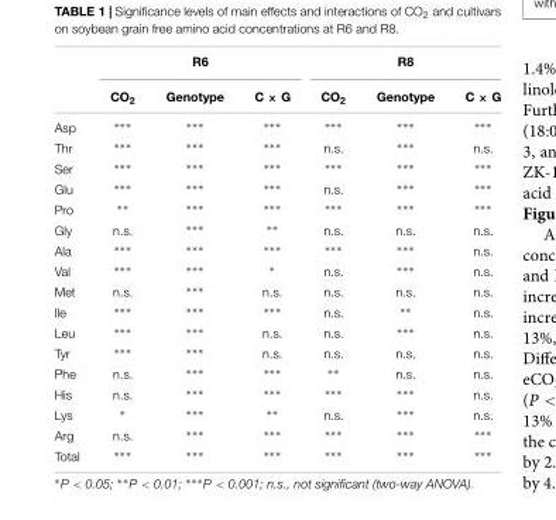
<table><thead><tr><td rowspan="2"></td><td colspan="3">R6</td><td colspan="3">R8</td></tr><tr><td>CO<sub>2</sub></td><td>Genotype</td><td>C × G</td><td>CO<sub>2</sub></td><td>Genotype</td><td>C × G</td></tr></thead><tbody><tr><td>Asp</td><td>∗∗∗</td><td>∗∗∗</td><td>∗∗∗</td><td>∗∗∗</td><td>∗∗∗</td><td>∗∗∗</td></tr><tr><td>Thr</td><td>∗∗∗</td><td>∗∗∗</td><td>∗∗∗</td><td>n.s.</td><td>∗∗∗</td><td>n.s.</td></tr><tr><td>Ser</td><td>∗∗∗</td><td>∗∗∗</td><td>∗∗∗</td><td>∗∗∗</td><td>∗∗∗</td><td>∗∗∗</td></tr><tr><td>Glu</td><td>∗∗∗</td><td>∗∗∗</td><td>∗∗∗</td><td>n.s.</td><td>∗∗∗</td><td>∗∗∗</td></tr><tr><td>Pro</td><td>∗∗</td><td>∗∗∗</td><td>∗∗∗</td><td>∗∗∗</td><td>∗∗∗</td><td>∗∗∗</td></tr><tr><td>Gly</td><td>n.s.</td><td>∗∗∗</td><td>∗∗</td><td>n.s.</td><td>n.s.</td><td>n.s.</td></tr><tr><td>Ala</td><td>∗∗∗</td><td>∗∗∗</td><td>∗∗∗</td><td>∗∗∗</td><td>∗∗∗</td><td>n.s.</td></tr><tr><td>Val</td><td>∗∗∗</td><td>∗∗∗</td><td>∗</td><td>n.s.</td><td>∗∗∗</td><td>n.s.</td></tr><tr><td>Met</td><td>n.s.</td><td>∗∗∗</td><td>n.s.</td><td>n.s.</td><td>n.s.</td><td>n.s.</td></tr><tr><td>Ile</td><td>∗∗∗</td><td>∗∗∗</td><td>∗∗∗</td><td>n.s.</td><td>∗∗</td><td>n.s.</td></tr><tr><td>Leu</td><td>∗∗∗</td><td>∗∗∗</td><td>n.s.</td><td>n.s.</td><td>∗∗∗</td><td>n.s.</td></tr><tr><td>Tyr</td><td>∗∗∗</td><td>∗∗∗</td><td>n.s.</td><td>n.s.</td><td>n.s.</td><td>n.s.</td></tr><tr><td>Phe</td><td>n.s.</td><td>∗∗∗</td><td>∗∗∗</td><td>∗∗</td><td>n.s.</td><td>n.s.</td></tr><tr><td>His</td><td>n.s.</td><td>∗∗∗</td><td>∗∗∗</td><td>∗∗∗</td><td>∗∗∗</td><td>n.s.</td></tr><tr><td>Lys</td><td>∗</td><td>∗∗∗</td><td>∗∗</td><td>n.s.</td><td>∗∗∗</td><td>n.s.</td></tr><tr><td>Arg</td><td>n.s.</td><td>∗∗∗</td><td>∗∗∗</td><td>∗∗∗</td><td>∗∗∗</td><td>∗∗∗</td></tr><tr><td>Total</td><td>∗∗∗</td><td>∗∗∗</td><td>∗∗∗</td><td>∗∗∗</td><td>∗∗∗</td><td>∗∗∗</td></tr></tbody></table>